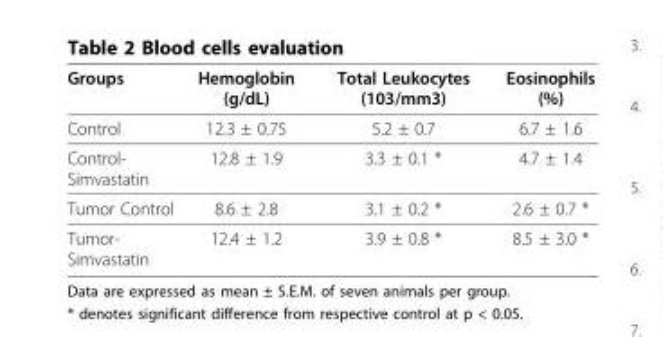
<table><thead><tr><td>Groups</td><td>Hemoglobin (g/dL)</td><td>Total Leukocytes (103/mm3)</td><td>Eosinophils (%)</td></tr></thead><tbody><tr><td>Control</td><td>12.3 ± 0.75</td><td>5.2 ± 0.7</td><td>6.7 ± 1.6</td></tr><tr><td>Control- Simvastatin</td><td>12.8 ± 1.9</td><td>3.3 ± 0.1 *</td><td>4.7 ± 1.4</td></tr><tr><td>Tumor Control</td><td>8.6 ± 2.8</td><td>3.1 ± 0.2 *</td><td>2.6 ± 0.7 *</td></tr><tr><td>Tumor- Simvastatin</td><td>12.4 ± 1.2</td><td>3.9 ± 0.8 *</td><td>8.5 ± 3.0 *</td></tr></tbody></table>